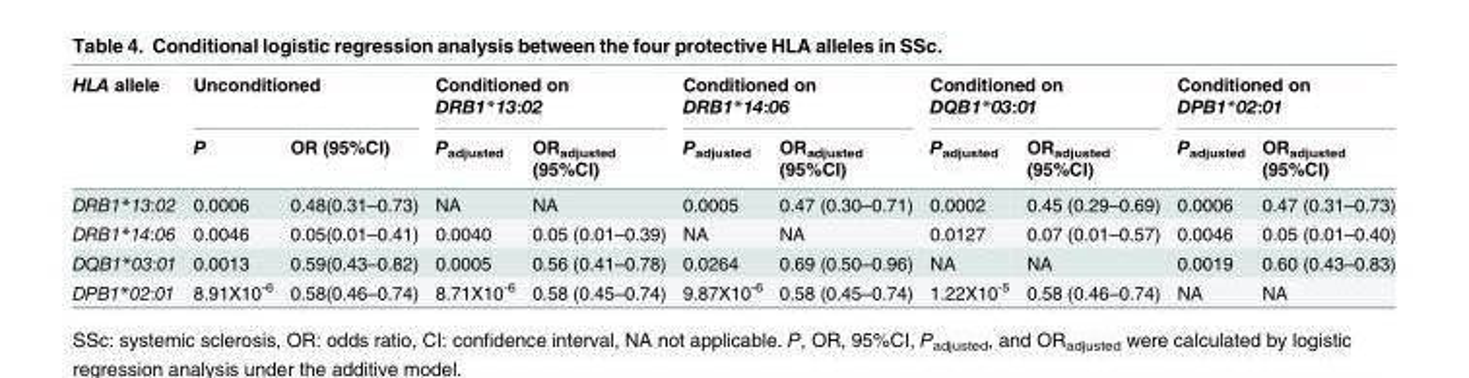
<table><thead><tr><td rowspan="2">HLA allele</td><td colspan="2">Unconditioned</td><td colspan="2">Conditioned on DRB1*13:02</td><td colspan="2">Conditioned on DRB1*14:06</td><td colspan="2">Conditioned on DQB1*03:01</td><td colspan="2">Conditioned on DPB1*02:01</td></tr><tr><td>P</td><td>OR (95%CI)</td><td>P<sub>adjusted</sub></td><td>OR<sub>adjusted</sub> (95%CI)</td><td>P<sub>adjusted</sub></td><td>OR<sub>adjusted</sub> (95%CI)</td><td>P<sub>adjusted</sub></td><td>OR<sub>adjusted</sub> (95%CI)</td><td>P<sub>adjusted</sub></td><td>OR<sub>adjusted</sub> (95%CI)</td></tr></thead><tbody><tr><td>DRB1*13:02</td><td>0.0006</td><td>0.48(0.31–0.73)</td><td>NA</td><td>NA</td><td>0.0005</td><td>0.47 (0.30–0.71)</td><td>0.0002</td><td>0.45 (0.29–0.69)</td><td>0.0006</td><td>0.47 (0.31–0.73)</td></tr><tr><td>DRB1*14:06</td><td>0.0046</td><td>0.05(0.01–0.41)</td><td>0.0040</td><td>0.05 (0.01–0.39)</td><td>NA</td><td>NA</td><td>0.0127</td><td>0.07 (0.01–0.57)</td><td>0.0046</td><td>0.05 (0.01–0.40)</td></tr><tr><td>DQB1*03:01</td><td>0.0013</td><td>0.59(0.43–0.82)</td><td>0.0005</td><td>0.56 (0.41–0.78)</td><td>0.0264</td><td>0.69 (0.50–0.96)</td><td>NA</td><td>NA</td><td>0.0019</td><td>0.60 (0.43–0.83)</td></tr><tr><td>DPB1*02:01</td><td>8.91X10<sup>-6</sup></td><td>0.58(0.46–0.74)</td><td>8.71X10<sup>-6</sup></td><td>0.58 (0.45–0.74)</td><td>9.87X10<sup>-6</sup></td><td>0.58 (0.45–0.74)</td><td>1.22X10<sup>-5</sup></td><td>0.58 (0.46–0.74)</td><td>NA</td><td>NA</td></tr></tbody></table>